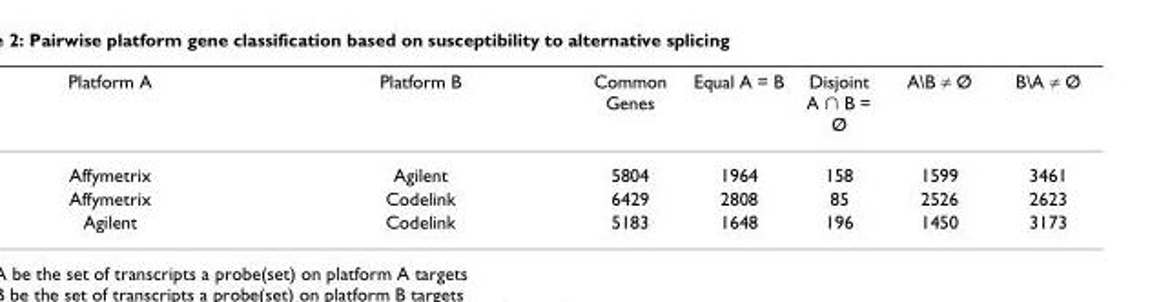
<table><thead><tr><td>Platform A</td><td>Platform B</td><td>Common Genes</td><td>Equal A = B</td><td>Disjoint A ⋂ B = Ø</td><td>A\B ≠ Ø</td><td>B\A ≠ Ø</td></tr></thead><tbody><tr><td>Affymetrix</td><td>Agilent</td><td>5804</td><td>1964</td><td>158</td><td>1599</td><td>3461</td></tr><tr><td>Affymetrix</td><td>Codelink</td><td>6429</td><td>2808</td><td>85</td><td>2526</td><td>2623</td></tr><tr><td>Agilent</td><td>Codelink</td><td>5183</td><td>1648</td><td>196</td><td>1450</td><td>3173</td></tr></tbody></table>